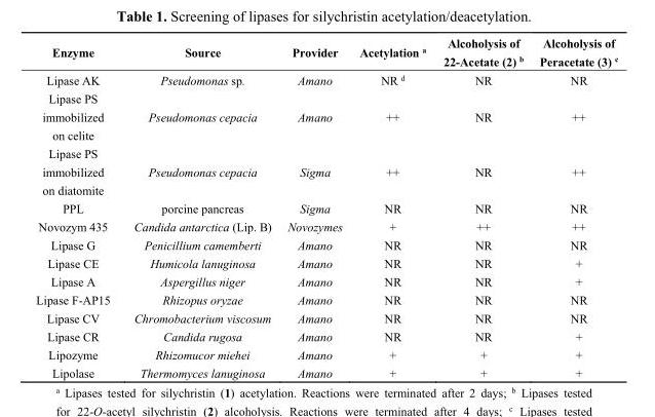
<table><thead><tr><td>Enzyme</td><td>Source</td><td>Provider</td><td>Acetylation <sup>a</sup></td><td>Alcoholysis of 22-Acetate (2) <sup>b</sup></td><td>Alcoholysis of Peracetate (3) <sup>c</sup></td></tr></thead><tbody><tr><td>Lipase AK</td><td>Pseudomonas sp.</td><td>Amano</td><td>NR <sup>d</sup></td><td>NR</td><td>NR</td></tr><tr><td>Lipase PS immobilized on celite</td><td>Pseudomonas cepacia</td><td>Amano</td><td>++</td><td>NR</td><td>++</td></tr><tr><td>Lipase PS immobilized on diatomite</td><td>Pseudomonas cepacia</td><td>Sigma</td><td>++</td><td>NR</td><td>++</td></tr><tr><td>PPL</td><td>porcine pancreas</td><td>Sigma</td><td>NR</td><td>NR</td><td>NR</td></tr><tr><td>Novozym 435</td><td>Candida antarctica (Lip. B)</td><td>Novozymes</td><td>+</td><td>++</td><td>++</td></tr><tr><td>Lipase G</td><td>Penicillium camemberti</td><td>Amano</td><td>NR</td><td>NR</td><td>NR</td></tr><tr><td>Lipase CE</td><td>Humicola lanuginosa</td><td>Amano</td><td>NR</td><td>NR</td><td>+</td></tr><tr><td>Lipase A</td><td>Aspergillus niger</td><td>Amano</td><td>NR</td><td>NR</td><td>+</td></tr><tr><td>Lipase F-AP15</td><td>Rhizopus oryzae</td><td>Amano</td><td>NR</td><td>NR</td><td>NR</td></tr><tr><td>Lipase CV</td><td>Chromobacterium viscosum</td><td>Amano</td><td>NR</td><td>NR</td><td>NR</td></tr><tr><td>Lipase CR</td><td>Candida rugosa</td><td>Amano</td><td>NR</td><td>NR</td><td>+</td></tr><tr><td>Lipozyme</td><td>Rhizomucor miehei</td><td>Amano</td><td>+</td><td>+</td><td>+</td></tr><tr><td>Lipolase</td><td>Thermomyces lanuginosa</td><td>Amano</td><td>+</td><td>+</td><td>+</td></tr></tbody></table>